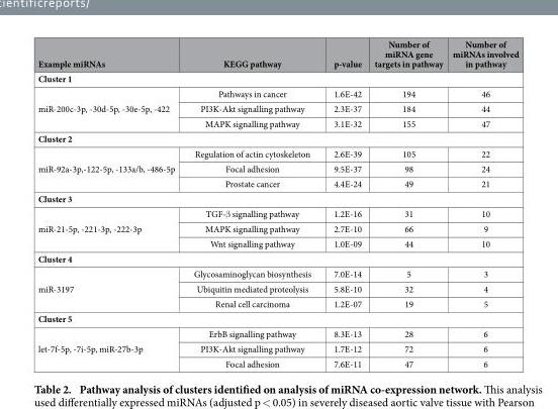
<table><thead><tr><td>Example miRNAs</td><td>KEGG pathway</td><td>p-value</td><td>Number of miRNA gene targets in pathway</td><td>Number of miRNAs involved in pathway</td></tr></thead><tbody><tr><td colspan="5">Cluster 1</td></tr><tr><td rowspan="3">miR-200c-3p, -30d-5p, -30e-5p, -422</td><td>Pathways in cancer</td><td>1.6E-42</td><td>194</td><td>46</td></tr><tr><td>PI3K-Akt signalling pathway</td><td>2.3E-37</td><td>184</td><td>44</td></tr><tr><td>MAPK signalling pathway</td><td>3.1E-32</td><td>155</td><td>47</td></tr><tr><td colspan="5">Cluster 2</td></tr><tr><td rowspan="3">miR-92a-3p,-122-5p, -133a/b, -486-5p</td><td>Regulation of actin cytoskeleton</td><td>2.6E-39</td><td>105</td><td>22</td></tr><tr><td>Focal adhesion</td><td>9.5E-37</td><td>98</td><td>24</td></tr><tr><td>Prostate cancer</td><td>4.4E-24</td><td>49</td><td>21</td></tr><tr><td colspan="5">Cluster 3</td></tr><tr><td rowspan="3">miR-21-5p, -221-3p, -222-3p</td><td>TGF-β signalling pathway</td><td>1.2E-16</td><td>31</td><td>10</td></tr><tr><td>MAPK signalling pathway</td><td>2.7E-10</td><td>66</td><td>9</td></tr><tr><td>Wnt signalling pathway</td><td>1.0E-09</td><td>44</td><td>10</td></tr><tr><td colspan="5">Cluster 4</td></tr><tr><td rowspan="3">miR-3197</td><td>Glycosaminoglycan biosynthesis</td><td>7.0E-14</td><td>5</td><td>3</td></tr><tr><td>Ubiquitin mediated proteolysis</td><td>5.8E-10</td><td>32</td><td>4</td></tr><tr><td>Renal cell carcinoma</td><td>1.2E-07</td><td>19</td><td>5</td></tr><tr><td colspan="5">Cluster 5</td></tr><tr><td rowspan="3">let-7f-5p, -7i-5p, miR-27b-3p</td><td>ErbB signalling pathway</td><td>8.3E-13</td><td>28</td><td>6</td></tr><tr><td>PI3K-Akt signalling pathway</td><td>1.7E-12</td><td>72</td><td>6</td></tr><tr><td>Focal adhesion</td><td>7.6E-11</td><td>47</td><td>6</td></tr></tbody></table>